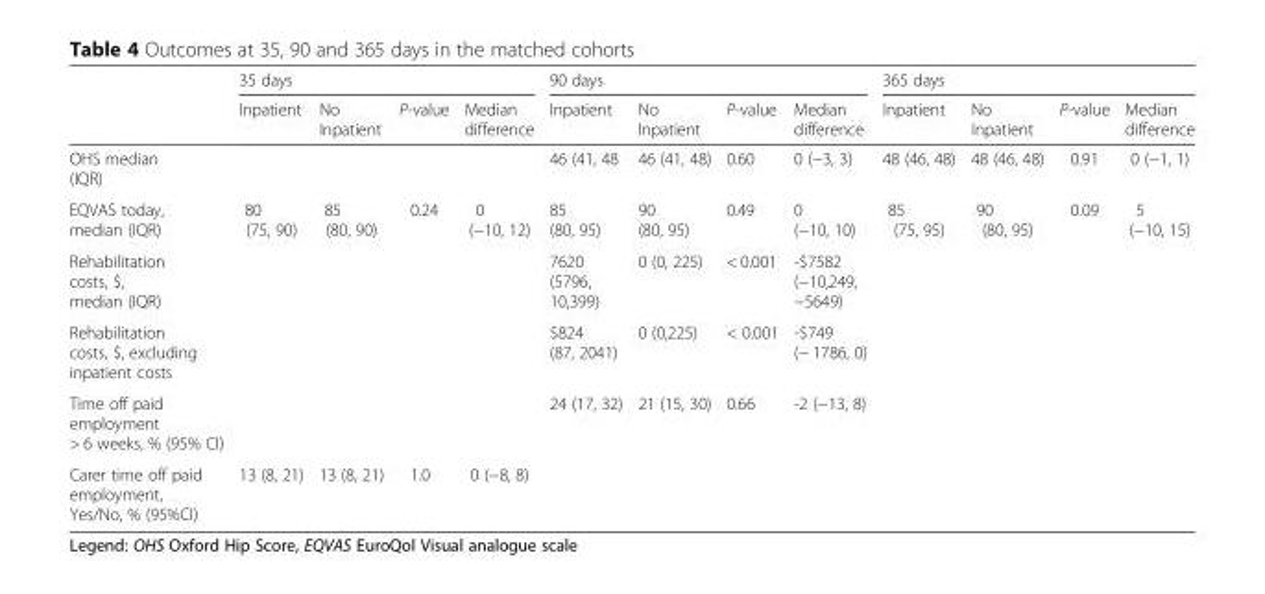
<table><thead><tr><td rowspan="2"></td><td colspan="4">35 days</td><td colspan="4">90 days</td><td colspan="4">365 days</td></tr><tr><td>Inpatient</td><td>No Inpatient</td><td>P-value</td><td>Median difference</td><td>Inpatient</td><td>No Inpatient</td><td>P-value</td><td>Median difference</td><td>Inpatient</td><td>No Inpatient</td><td>P-value</td><td>Median difference</td></tr></thead><tbody><tr><td>OHS median (IQR)</td><td></td><td></td><td></td><td></td><td>46 (41, 48</td><td>46 (41, 48)</td><td>0.60</td><td>0 (−3, 3)</td><td>48 (46, 48)</td><td>48 (46, 48)</td><td>0.91</td><td>0 (−1, 1)</td></tr><tr><td>EQVAS today, median (IQR)</td><td>80 (75, 90)</td><td>85 (80, 90)</td><td>0.24</td><td>0 (−10, 12)</td><td>85 (80, 95)</td><td>90 (80, 95)</td><td>0.49</td><td>0 (−10, 10)</td><td>85 (75, 95)</td><td>90 (80, 95)</td><td>0.09</td><td>5 (−10, 15)</td></tr><tr><td>Rehabilitation costs, $, median (IQR)</td><td></td><td></td><td></td><td></td><td>7620 (5796, 10,399)</td><td>0 (0, 225)</td><td>&lt; 0.001</td><td>-$7582 (−10,249, −5649)</td><td></td><td></td><td></td><td></td></tr><tr><td>Rehabilitation costs, $, excluding inpatient costs</td><td></td><td></td><td></td><td></td><td>$824 (87, 2041)</td><td>0 (0,225)</td><td>&lt; 0.001</td><td>-$749 (− 1786, 0)</td><td></td><td></td><td></td><td></td></tr><tr><td>Time off paid employment &gt; 6 weeks, % (95% CI)</td><td></td><td></td><td></td><td></td><td>24 (17, 32)</td><td>21 (15, 30)</td><td>0.66</td><td>-2 (−13, 8)</td><td></td><td></td><td></td><td></td></tr><tr><td>Carer time off paid employment, Yes/No, % (95%CI)</td><td>13 (8, 21)</td><td>13 (8, 21)</td><td>1.0</td><td>0 (−8, 8)</td><td></td><td></td><td></td><td></td><td></td><td></td><td></td><td></td></tr></tbody></table>